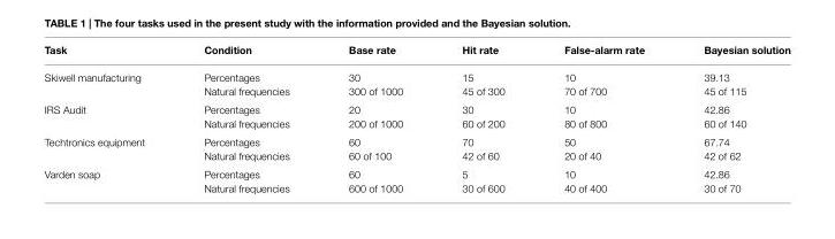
<table><thead><tr><td>Task</td><td>Condition</td><td>Base rate</td><td>Hit rate</td><td>False-alarm rate</td><td>Bayesian solution</td></tr></thead><tbody><tr><td rowspan="2">Skiwell manufacturing</td><td>Percentages</td><td>30</td><td>15</td><td>10</td><td>39.13</td></tr><tr><td>Natural frequencies</td><td>300 of 1000</td><td>45 of 300</td><td>70 of 700</td><td>45 of 115</td></tr><tr><td rowspan="2">IRS Audit</td><td>Percentages</td><td>20</td><td>30</td><td>10</td><td>42.86</td></tr><tr><td>Natural frequencies</td><td>200 of 1000</td><td>60 of 200</td><td>80 of 800</td><td>60 of 140</td></tr><tr><td rowspan="2">Techtronics equipment</td><td>Percentages</td><td>60</td><td>70</td><td>50</td><td>67.74</td></tr><tr><td>Natural frequencies</td><td>60 of 100</td><td>42 of 60</td><td>20 of 40</td><td>42 of 62</td></tr><tr><td rowspan="2">Varden soap</td><td>Percentages</td><td>60</td><td>5</td><td>10</td><td>42.86</td></tr><tr><td>Natural frequencies</td><td>600 of 1000</td><td>30 of 600</td><td>40 of 400</td><td>30 of 70</td></tr></tbody></table>